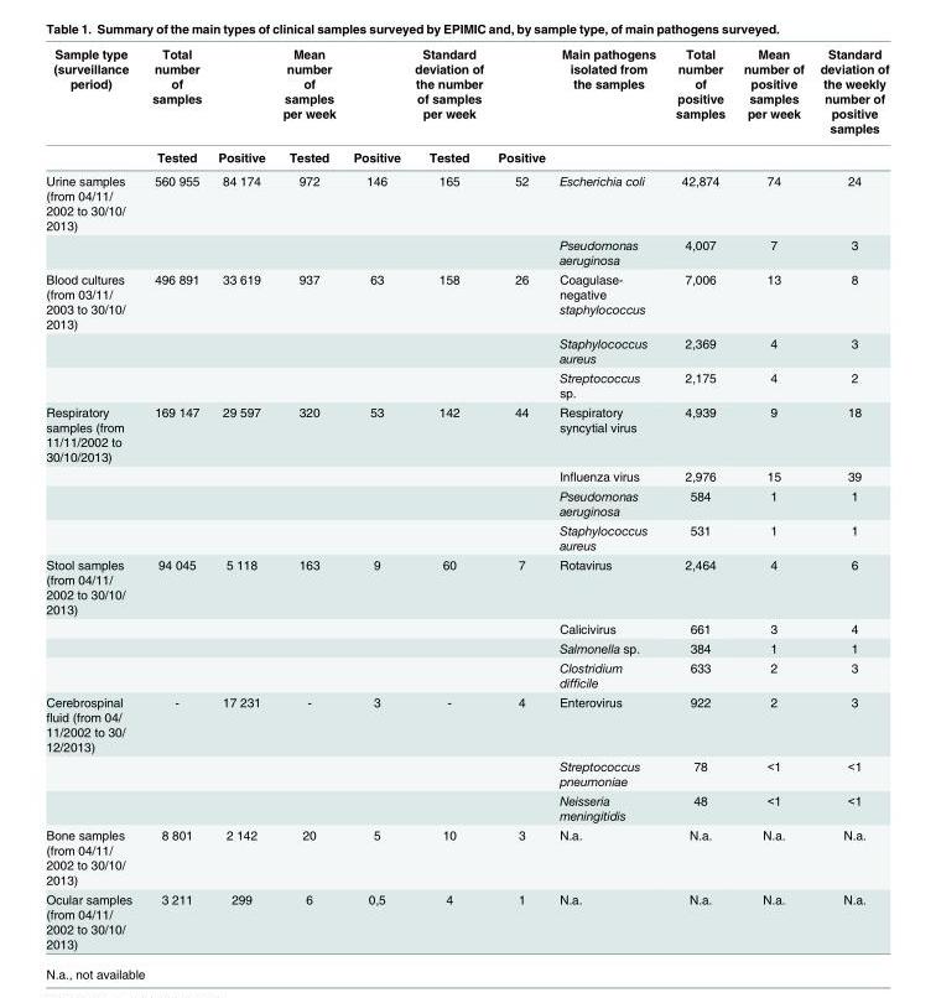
<table><thead><tr><td rowspan="2">Sample type (surveillance period)</td><td rowspan="2">Total number of samples Tested</td><td rowspan="2">Positive</td><td rowspan="2">Mean number of samples per week Tested</td><td rowspan="2">Positive</td><td rowspan="2">Standard deviation of the number of samples per week Tested</td><td rowspan="2">Positive</td><td rowspan="2">Main pathogens isolated from the samples</td><td rowspan="2">Total number of positive samples</td><td rowspan="2">Mean number of positive samples per week</td><td rowspan="2">Standard deviation of the weekly number of positive samples</td></tr><tr></tr></thead><tbody><tr><td rowspan="2">Urine samples (from 04/11/ 2002 to 30/10/ 2013)</td><td>560 955</td><td>84 174</td><td>972</td><td>146</td><td>165</td><td>52</td><td>Escherichia coli</td><td>42,874</td><td>74</td><td>24</td></tr><tr><td></td><td></td><td></td><td></td><td></td><td></td><td>Pseudomonas aeruginosa</td><td>4,007</td><td>7</td><td>3</td></tr><tr><td rowspan="3">Blood cultures (from 03/11/ 2003 to 30/10/ 2013)</td><td>496 891</td><td>33 619</td><td>937</td><td>63</td><td>158</td><td>26</td><td>Coagulase- negative staphylococcus</td><td>7,006</td><td>13</td><td>8</td></tr><tr><td></td><td></td><td></td><td></td><td></td><td></td><td>Staphylococcus aureus</td><td>2,369</td><td>4</td><td>3</td></tr><tr><td></td><td></td><td></td><td></td><td></td><td></td><td>Streptococcus sp.</td><td>2,175</td><td>4</td><td>2</td></tr><tr><td rowspan="4">Respiratory samples (from 11/11/2002 to 30/10/2013)</td><td>169 147</td><td>29 597</td><td>320</td><td>53</td><td>142</td><td>44</td><td>Respiratory syncytial virus</td><td>4,939</td><td>9</td><td>18</td></tr><tr><td></td><td></td><td></td><td></td><td></td><td></td><td>Influenza virus</td><td>2,976</td><td>15</td><td>39</td></tr><tr><td></td><td></td><td></td><td></td><td></td><td></td><td>Pseudomonas aeruginosa</td><td>584</td><td>1</td><td>1</td></tr><tr><td></td><td></td><td></td><td></td><td></td><td></td><td>Staphylococcus aureus</td><td>531</td><td>1</td><td>1</td></tr><tr><td rowspan="4">Stool samples (from 04/11/ 2002 to 30/10/ 2013)</td><td>94 045</td><td>5 118</td><td>163</td><td>9</td><td>60</td><td>7</td><td>Rotavirus</td><td>2,464</td><td>4</td><td>6</td></tr><tr><td></td><td></td><td></td><td></td><td></td><td></td><td>Calicivirus</td><td>661</td><td>3</td><td>4</td></tr><tr><td></td><td></td><td></td><td></td><td></td><td></td><td>Salmonella sp.</td><td>384</td><td>1</td><td>1</td></tr><tr><td></td><td></td><td></td><td></td><td></td><td></td><td>Clostridium difficile</td><td>633</td><td>2</td><td>3</td></tr><tr><td rowspan="3">Cerebrospinal fluid (from 04/ 11/2002 to 30/ 12/2013)</td><td>-</td><td>17 231</td><td>-</td><td>3</td><td>-</td><td>4</td><td>Enterovirus</td><td>922</td><td>2</td><td>3</td></tr><tr><td></td><td></td><td></td><td></td><td></td><td></td><td>Streptococcus pneumoniae</td><td>78</td><td>&lt;1</td><td>&lt;1</td></tr><tr><td></td><td></td><td></td><td></td><td></td><td></td><td>Neisseria meningitidis</td><td>48</td><td>&lt;1</td><td>&lt;1</td></tr><tr><td>Bone samples (from 04/11/ 2002 to 30/10/ 2013)</td><td>8 801</td><td>2 142</td><td>20</td><td>5</td><td>10</td><td>3</td><td>N.a.</td><td>N.a.</td><td>N.a.</td><td>N.a.</td></tr><tr><td>Ocular samples (from 04/11/ 2002 to 30/10/ 2013)</td><td>3 211</td><td>299</td><td>6</td><td>0,5</td><td>4</td><td>1</td><td>N.a.</td><td>N.a.</td><td>N.a.</td><td>N.a.</td></tr></tbody></table>